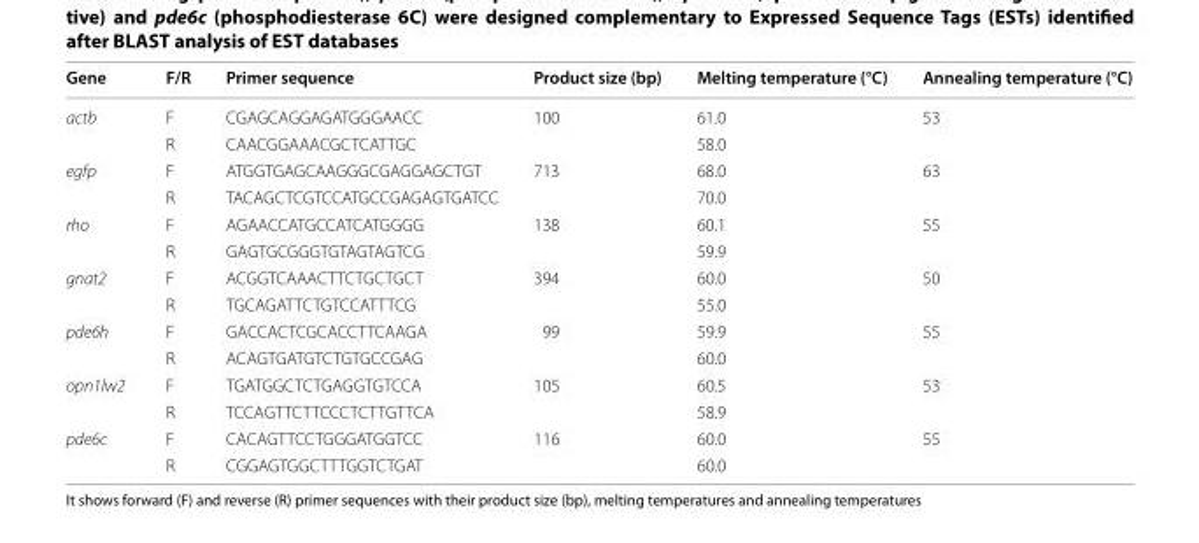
<table><thead><tr><td>Gene</td><td>F/R</td><td>Primer sequence</td><td>Product size (bp)</td><td>Melting temperature (°C)</td><td>Annealing temperature (°C)</td></tr></thead><tbody><tr><td rowspan="2">actb</td><td>F</td><td>CGAGCAGGAGATGGGAACC</td><td>100</td><td>61.0</td><td>53</td></tr><tr><td>R</td><td>CAACGGAAACGCTCATTGC</td><td></td><td>58.0</td><td></td></tr><tr><td rowspan="2">egfp</td><td>F</td><td>ATGGTGAGCAAGGGCGAGGAGCTGT</td><td>713</td><td>68.0</td><td>63</td></tr><tr><td>R</td><td>TACAGCTCGTCCATGCCGAGAGTGATCC</td><td></td><td>70.0</td><td></td></tr><tr><td rowspan="2">rho</td><td>F</td><td>AGAACCATGCCATCATGGGG</td><td>138</td><td>60.1</td><td>55</td></tr><tr><td>R</td><td>GAGTGCGGGTGTAGTAGTCG</td><td></td><td>59.9</td><td></td></tr><tr><td rowspan="2">gnat2</td><td>F</td><td>ACGGTCAAACTTCTGCTGCT</td><td>394</td><td>60.0</td><td>50</td></tr><tr><td>R</td><td>TGCAGATTCTGTCCATTTCG</td><td></td><td>55.0</td><td></td></tr><tr><td rowspan="2">pde6h</td><td>F</td><td>GACCACTCGCACCTTCAAGA</td><td>99</td><td>59.9</td><td>55</td></tr><tr><td>R</td><td>ACAGTGATGTCTGTGCCGAG</td><td></td><td>60.0</td><td></td></tr><tr><td rowspan="2">opn1lw2</td><td>F</td><td>TGATGGCTCTGAGGTGTCCA</td><td>105</td><td>60.5</td><td>53</td></tr><tr><td>R</td><td>TCCAGTTCTTCCCTCTTGTTCA</td><td></td><td>58.9</td><td></td></tr><tr><td rowspan="2">pde6c</td><td>F</td><td>CACAGTTCCTGGGATGGTCC</td><td>116</td><td>60.0</td><td>55</td></tr><tr><td>R</td><td>CGGAGTGGCTTTGGTCTGAT</td><td></td><td>60.0</td><td></td></tr></tbody></table>